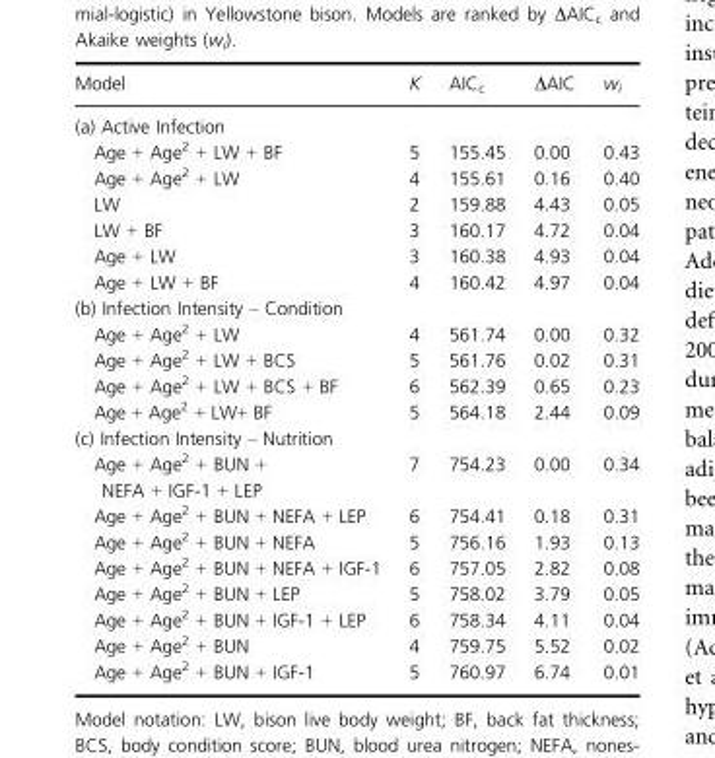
<table><thead><tr><td>Model</td><td>K</td><td>AIC<sub>c</sub></td><td>ΔAIC</td><td>w<sub>i</sub></td></tr></thead><tbody><tr><td colspan="5">(a) Active Infection</td></tr><tr><td>Age + Age<sup>2</sup> + LW + BF</td><td>5</td><td>155.45</td><td>0.00</td><td>0.43</td></tr><tr><td>Age + Age<sup>2</sup> + LW</td><td>4</td><td>155.61</td><td>0.16</td><td>0.40</td></tr><tr><td>LW</td><td>2</td><td>159.88</td><td>4.43</td><td>0.05</td></tr><tr><td>LW + BF</td><td>3</td><td>160.17</td><td>4.72</td><td>0.04</td></tr><tr><td>Age + LW</td><td>3</td><td>160.38</td><td>4.93</td><td>0.04</td></tr><tr><td>Age + LW + BF</td><td>4</td><td>160.42</td><td>4.97</td><td>0.04</td></tr><tr><td colspan="5">(b) Infection Intensity – Condition</td></tr><tr><td>Age + Age<sup>2</sup> + LW</td><td>4</td><td>561.74</td><td>0.00</td><td>0.32</td></tr><tr><td>Age + Age<sup>2</sup> + LW + BCS</td><td>5</td><td>561.76</td><td>0.02</td><td>0.31</td></tr><tr><td>Age + Age<sup>2</sup> + LW + BCS + BF</td><td>6</td><td>562.39</td><td>0.65</td><td>0.23</td></tr><tr><td>Age + Age<sup>2</sup> + LW+ BF</td><td>5</td><td>564.18</td><td>2.44</td><td>0.09</td></tr><tr><td colspan="5">(c) Infection Intensity – Nutrition</td></tr><tr><td>Age + Age<sup>2</sup> + BUN + NEFA + IGF-1 + LEP</td><td>7</td><td>754.23</td><td>0.00</td><td>0.34</td></tr><tr><td>Age + Age<sup>2</sup> + BUN + NEFA + LEP</td><td>6</td><td>754.41</td><td>0.18</td><td>0.31</td></tr><tr><td>Age + Age<sup>2</sup> + BUN + NEFA</td><td>5</td><td>756.16</td><td>1.93</td><td>0.13</td></tr><tr><td>Age + Age<sup>2</sup> + BUN + NEFA + IGF-1</td><td>6</td><td>757.05</td><td>2.82</td><td>0.08</td></tr><tr><td>Age + Age<sup>2</sup> + BUN + LEP</td><td>5</td><td>758.02</td><td>3.79</td><td>0.05</td></tr><tr><td>Age + Age<sup>2</sup> + BUN + IGF-1 + LEP</td><td>6</td><td>758.34</td><td>4.11</td><td>0.04</td></tr><tr><td>Age + Age<sup>2</sup> + BUN</td><td>4</td><td>759.75</td><td>5.52</td><td>0.02</td></tr><tr><td>Age + Age<sup>2</sup> + BUN + IGF-1</td><td>5</td><td>760.97</td><td>6.74</td><td>0.01</td></tr></tbody></table>